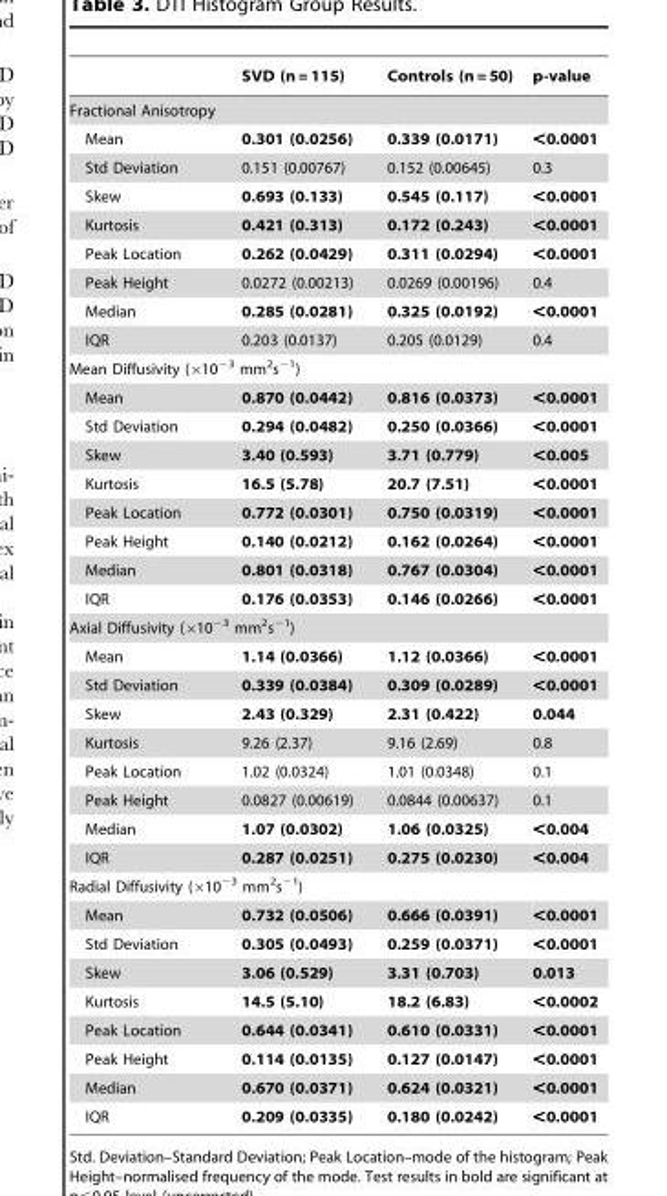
<table><thead><tr><td></td><td>SVD (n = 115)</td><td>Controls (n = 50)</td><td>p-value</td></tr></thead><tbody><tr><td colspan="4">Fractional Anisotropy</td></tr><tr><td>Mean</td><td>0.301 (0.0256)</td><td>0.339 (0.0171)</td><td>&lt;0.0001</td></tr><tr><td>Std Deviation</td><td>0.151 (0.00767)</td><td>0.152 (0.00645)</td><td>0.3</td></tr><tr><td>Skew</td><td>0.693 (0.133)</td><td>0.545 (0.117)</td><td>&lt;0.0001</td></tr><tr><td>Kurtosis</td><td>0.421 (0.313)</td><td>0.172 (0.243)</td><td>&lt;0.0001</td></tr><tr><td>Peak Location</td><td>0.262 (0.0429)</td><td>0.311 (0.0294)</td><td>&lt;0.0001</td></tr><tr><td>Peak Height</td><td>0.0272 (0.00213)</td><td>0.0269 (0.00196)</td><td>0.4</td></tr><tr><td>Median</td><td>0.285 (0.0281)</td><td>0.325 (0.0192)</td><td>&lt;0.0001</td></tr><tr><td>IQR</td><td>0.203 (0.0137)</td><td>0.205 (0.0129)</td><td>0.4</td></tr><tr><td colspan="4">Mean Diffusivity (×10<sup>−3</sup> mm<sup>2</sup>s<sup>−1</sup>)</td></tr><tr><td>Mean</td><td>0.870 (0.0442)</td><td>0.816 (0.0373)</td><td>&lt;0.0001</td></tr><tr><td>Std Deviation</td><td>0.294 (0.0482)</td><td>0.250 (0.0366)</td><td>&lt;0.0001</td></tr><tr><td>Skew</td><td>3.40 (0.593)</td><td>3.71 (0.779)</td><td>&lt;0.005</td></tr><tr><td>Kurtosis</td><td>16.5 (5.78)</td><td>20.7 (7.51)</td><td>&lt;0.0001</td></tr><tr><td>Peak Location</td><td>0.772 (0.0301)</td><td>0.750 (0.0319)</td><td>&lt;0.0001</td></tr><tr><td>Peak Height</td><td>0.140 (0.0212)</td><td>0.162 (0.0264)</td><td>&lt;0.0001</td></tr><tr><td>Median</td><td>0.801 (0.0318)</td><td>0.767 (0.0304)</td><td>&lt;0.0001</td></tr><tr><td>IQR</td><td>0.176 (0.0353)</td><td>0.146 (0.0266)</td><td>&lt;0.0001</td></tr><tr><td colspan="4">Axial Diffusivity (×10<sup>−3</sup> mm<sup>2</sup>s<sup>−1</sup>)</td></tr><tr><td>Mean</td><td>1.14 (0.0366)</td><td>1.12 (0.0366)</td><td>&lt;0.0001</td></tr><tr><td>Std Deviation</td><td>0.339 (0.0384)</td><td>0.309 (0.0289)</td><td>&lt;0.0001</td></tr><tr><td>Skew</td><td>2.43 (0.329)</td><td>2.31 (0.422)</td><td>0.044</td></tr><tr><td>Kurtosis</td><td>9.26 (2.37)</td><td>9.16 (2.69)</td><td>0.8</td></tr><tr><td>Peak Location</td><td>1.02 (0.0324)</td><td>1.01 (0.0348)</td><td>0.1</td></tr><tr><td>Peak Height</td><td>0.0827 (0.00619)</td><td>0.0844 (0.00637)</td><td>0.1</td></tr><tr><td>Median</td><td>1.07 (0.0302)</td><td>1.06 (0.0325)</td><td>&lt;0.004</td></tr><tr><td>IQR</td><td>0.287 (0.0251)</td><td>0.275 (0.0230)</td><td>&lt;0.004</td></tr><tr><td colspan="4">Radial Diffusivity (×10<sup>−3</sup> mm<sup>2</sup>s<sup>−1</sup>)</td></tr><tr><td>Mean</td><td>0.732 (0.0506)</td><td>0.666 (0.0391)</td><td>&lt;0.0001</td></tr><tr><td>Std Deviation</td><td>0.305 (0.0493)</td><td>0.259 (0.0371)</td><td>&lt;0.0001</td></tr><tr><td>Skew</td><td>3.06 (0.529)</td><td>3.31 (0.703)</td><td>0.013</td></tr><tr><td>Kurtosis</td><td>14.5 (5.10)</td><td>18.2 (6.83)</td><td>&lt;0.0002</td></tr><tr><td>Peak Location</td><td>0.644 (0.0341)</td><td>0.610 (0.0331)</td><td>&lt;0.0001</td></tr><tr><td>Peak Height</td><td>0.114 (0.0135)</td><td>0.127 (0.0147)</td><td>&lt;0.0001</td></tr><tr><td>Median</td><td>0.670 (0.0371)</td><td>0.624 (0.0321)</td><td>&lt;0.0001</td></tr><tr><td>IQR</td><td>0.209 (0.0335)</td><td>0.180 (0.0242)</td><td>&lt;0.0001</td></tr></tbody></table>